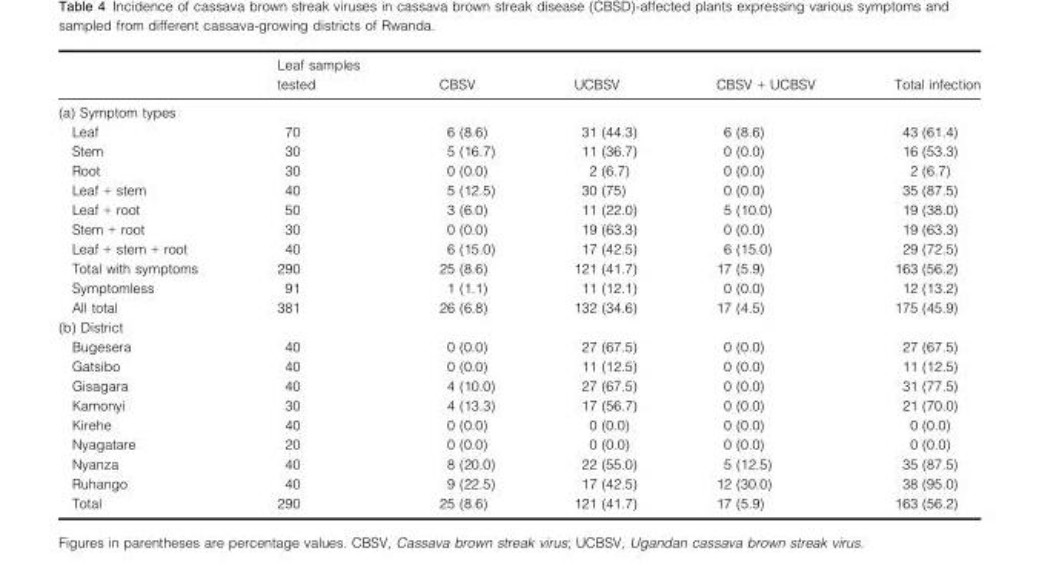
<table><thead><tr><td></td><td>Leaf samples tested</td><td>CBSV</td><td>UCBSV</td><td>CBSV + UCBSV</td><td>Total infection</td></tr></thead><tbody><tr><td colspan="6">(a) Symptom types</td></tr><tr><td>Leaf</td><td>70</td><td>6 (8.6)</td><td>31 (44.3)</td><td>6 (8.6)</td><td>43 (61.4)</td></tr><tr><td>Stem</td><td>30</td><td>5 (16.7)</td><td>11 (36.7)</td><td>0 (0.0)</td><td>16 (53.3)</td></tr><tr><td>Root</td><td>30</td><td>0 (0.0)</td><td>2 (6.7)</td><td>0 (0.0)</td><td>2 (6.7)</td></tr><tr><td>Leaf + stem</td><td>40</td><td>5 (12.5)</td><td>30 (75)</td><td>0 (0.0)</td><td>35 (87.5)</td></tr><tr><td>Leaf + root</td><td>50</td><td>3 (6.0)</td><td>11 (22.0)</td><td>5 (10.0)</td><td>19 (38.0)</td></tr><tr><td>Stem + root</td><td>30</td><td>0 (0.0)</td><td>19 (63.3)</td><td>0 (0.0)</td><td>19 (63.3)</td></tr><tr><td>Leaf + stem + root</td><td>40</td><td>6 (15.0)</td><td>17 (42.5)</td><td>6 (15.0)</td><td>29 (72.5)</td></tr><tr><td>Total with symptoms</td><td>290</td><td>25 (8.6)</td><td>121 (41.7)</td><td>17 (5.9)</td><td>163 (56.2)</td></tr><tr><td>Symptomless</td><td>91</td><td>1 (1.1)</td><td>11 (12.1)</td><td>0 (0.0)</td><td>12 (13.2)</td></tr><tr><td>All total</td><td>381</td><td>26 (6.8)</td><td>132 (34.6)</td><td>17 (4.5)</td><td>175 (45.9)</td></tr><tr><td colspan="6">(b) District</td></tr><tr><td>Bugesera</td><td>40</td><td>0 (0.0)</td><td>27 (67.5)</td><td>0 (0.0)</td><td>27 (67.5)</td></tr><tr><td>Gatsibo</td><td>40</td><td>0 (0.0)</td><td>11 (12.5)</td><td>0 (0.0)</td><td>11 (12.5)</td></tr><tr><td>Gisagara</td><td>40</td><td>4 (10.0)</td><td>27 (67.5)</td><td>0 (0.0)</td><td>31 (77.5)</td></tr><tr><td>Kamonyi</td><td>30</td><td>4 (13.3)</td><td>17 (56.7)</td><td>0 (0.0)</td><td>21 (70.0)</td></tr><tr><td>Kirehe</td><td>40</td><td>0 (0.0)</td><td>0 (0.0)</td><td>0 (0.0)</td><td>0 (0.0)</td></tr><tr><td>Nyagatare</td><td>20</td><td>0 (0.0)</td><td>0 (0.0)</td><td>0 (0.0)</td><td>0 (0.0)</td></tr><tr><td>Nyanza</td><td>40</td><td>8 (20.0)</td><td>22 (55.0)</td><td>5 (12.5)</td><td>35 (87.5)</td></tr><tr><td>Ruhango</td><td>40</td><td>9 (22.5)</td><td>17 (42.5)</td><td>12 (30.0)</td><td>38 (95.0)</td></tr><tr><td>Total</td><td>290</td><td>25 (8.6)</td><td>121 (41.7)</td><td>17 (5.9)</td><td>163 (56.2)</td></tr></tbody></table>